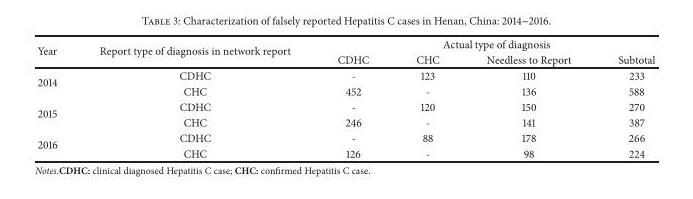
<table><thead><tr><td rowspan="2">Year</td><td rowspan="2">Report type of diagnosis in network report</td><td colspan="4">Actual type of diagnosis</td></tr><tr><td>CDHC</td><td>CHC</td><td>Needless to Report</td><td>Subtotal</td></tr></thead><tbody><tr><td rowspan="2">2014</td><td>CDHC</td><td>-</td><td>123</td><td>110</td><td>233</td></tr><tr><td>CHC</td><td>452</td><td>-</td><td>136</td><td>588</td></tr><tr><td rowspan="2">2015</td><td>CDHC</td><td>-</td><td>120</td><td>150</td><td>270</td></tr><tr><td>CHC</td><td>246</td><td>-</td><td>141</td><td>387</td></tr><tr><td rowspan="2">2016</td><td>CDHC</td><td>-</td><td>88</td><td>178</td><td>266</td></tr><tr><td>CHC</td><td>126</td><td>-</td><td>98</td><td>224</td></tr></tbody></table>